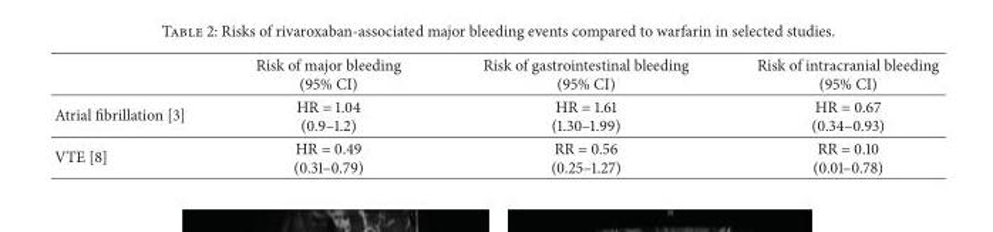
<table><thead><tr><td></td><td>Risk of major bleeding (95% CI)</td><td>Risk of gastrointestinal bleeding (95% CI)</td><td>Risk of intracranial bleeding (95% CI)</td></tr></thead><tbody><tr><td>Atrial fibrillation [3]</td><td>HR = 1.04 (0.9–1.2)</td><td>HR = 1.61 (1.30–1.99)</td><td>HR = 0.67 (0.34–0.93)</td></tr><tr><td>VTE [8]</td><td>HR = 0.49 (0.31–0.79)</td><td>RR = 0.56 (0.25–1.27)</td><td>RR = 0.10 (0.01–0.78)</td></tr></tbody></table>